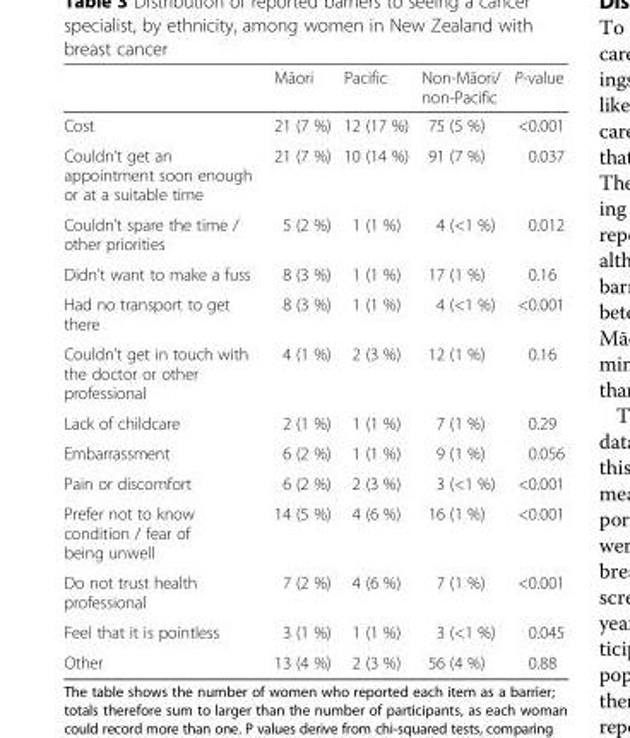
<table><thead><tr><td></td><td>Māori</td><td>Pacific</td><td>Non-Māori/ non-Pacific</td><td>P-value</td></tr></thead><tbody><tr><td>Cost</td><td>21 (7 %)</td><td>12 (17 %)</td><td>75 (5 %)</td><td>&lt;0.001</td></tr><tr><td>Couldn’t get an appointment soon enough or at a suitable time</td><td>21 (7 %)</td><td>10 (14 %)</td><td>91 (7 %)</td><td>0.037</td></tr><tr><td>Couldn’t spare the time / other priorities</td><td>5 (2 %)</td><td>1 (1 %)</td><td>4 (&lt;1 %)</td><td>0.012</td></tr><tr><td>Didn’t want to make a fuss</td><td>8 (3 %)</td><td>1 (1 %)</td><td>17 (1 %)</td><td>0.16</td></tr><tr><td>Had no transport to get there</td><td>8 (3 %)</td><td>1 (1 %)</td><td>4 (&lt;1 %)</td><td>&lt;0.001</td></tr><tr><td>Couldn’t get in touch with the doctor or other professional</td><td>4 (1 %)</td><td>2 (3 %)</td><td>12 (1 %)</td><td>0.16</td></tr><tr><td>Lack of childcare</td><td>2 (1 %)</td><td>1 (1 %)</td><td>7 (1 %)</td><td>0.29</td></tr><tr><td>Embarrassment</td><td>6 (2 %)</td><td>1 (1 %)</td><td>9 (1 %)</td><td>0.056</td></tr><tr><td>Pain or discomfort</td><td>6 (2 %)</td><td>2 (3 %)</td><td>3 (&lt;1 %)</td><td>&lt;0.001</td></tr><tr><td>Prefer not to know condition / fear of being unwell</td><td>14 (5 %)</td><td>4 (6 %)</td><td>16 (1 %)</td><td>&lt;0.001</td></tr><tr><td>Do not trust health professional</td><td>7 (2 %)</td><td>4 (6 %)</td><td>7 (1 %)</td><td>&lt;0.001</td></tr><tr><td>Feel that it is pointless</td><td>3 (1 %)</td><td>1 (1 %)</td><td>3 (&lt;1 %)</td><td>0.045</td></tr><tr><td>Other</td><td>13 (4 %)</td><td>2 (3 %)</td><td>56 (4 %)</td><td>0.88</td></tr></tbody></table>